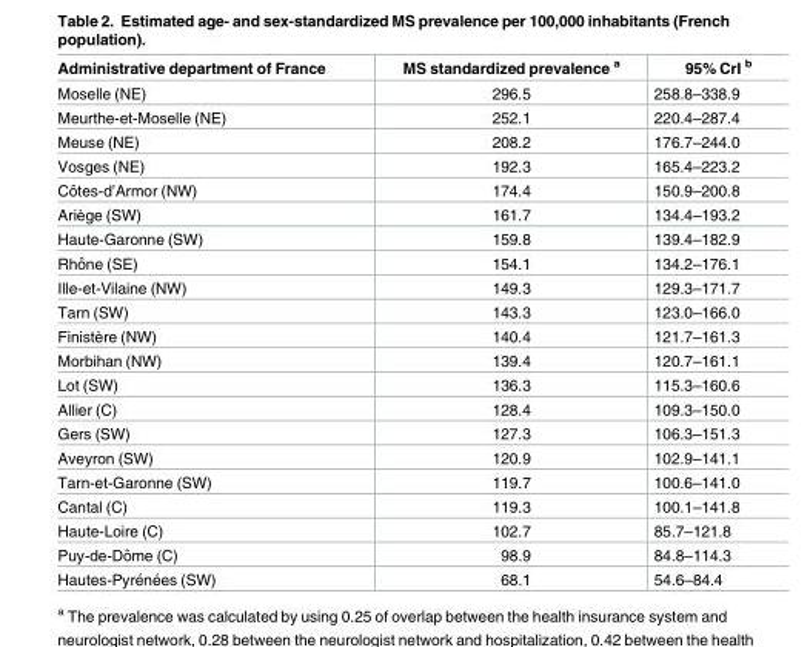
<table><thead><tr><td>Administrative department of France</td><td>MS standardized prevalence <sup>a</sup></td><td>95% CrI <sup>b</sup></td></tr></thead><tbody><tr><td>Moselle (NE)</td><td>296.5</td><td>258.8–338.9</td></tr><tr><td>Meurthe-et-Moselle (NE)</td><td>252.1</td><td>220.4–287.4</td></tr><tr><td>Meuse (NE)</td><td>208.2</td><td>176.7–244.0</td></tr><tr><td>Vosges (NE)</td><td>192.3</td><td>165.4–223.2</td></tr><tr><td>Coˆtes-d’Armor (NW)</td><td>174.4</td><td>150.9–200.8</td></tr><tr><td>Ariège (SW)</td><td>161.7</td><td>134.4–193.2</td></tr><tr><td>Haute-Garonne (SW)</td><td>159.8</td><td>139.4–182.9</td></tr><tr><td>Rhoˆne (SE)</td><td>154.1</td><td>134.2–176.1</td></tr><tr><td>Ille-et-Vilaine (NW)</td><td>149.3</td><td>129.3–171.7</td></tr><tr><td>Tarn (SW)</td><td>143.3</td><td>123.0–166.0</td></tr><tr><td>Finistère (NW)</td><td>140.4</td><td>121.7–161.3</td></tr><tr><td>Morbihan (NW)</td><td>139.4</td><td>120.7–161.1</td></tr><tr><td>Lot (SW)</td><td>136.3</td><td>115.3–160.6</td></tr><tr><td>Allier (C)</td><td>128.4</td><td>109.3–150.0</td></tr><tr><td>Gers (SW)</td><td>127.3</td><td>106.3–151.3</td></tr><tr><td>Aveyron (SW)</td><td>120.9</td><td>102.9–141.1</td></tr><tr><td>Tarn-et-Garonne (SW)</td><td>119.7</td><td>100.6–141.0</td></tr><tr><td>Cantal (C)</td><td>119.3</td><td>100.1–141.8</td></tr><tr><td>Haute-Loire (C)</td><td>102.7</td><td>85.7–121.8</td></tr><tr><td>Puy-de-Doˆme (C)</td><td>98.9</td><td>84.8–114.3</td></tr><tr><td>Hautes-Pyre´ne´es (SW)</td><td>68.1</td><td>54.6–84.4</td></tr></tbody></table>